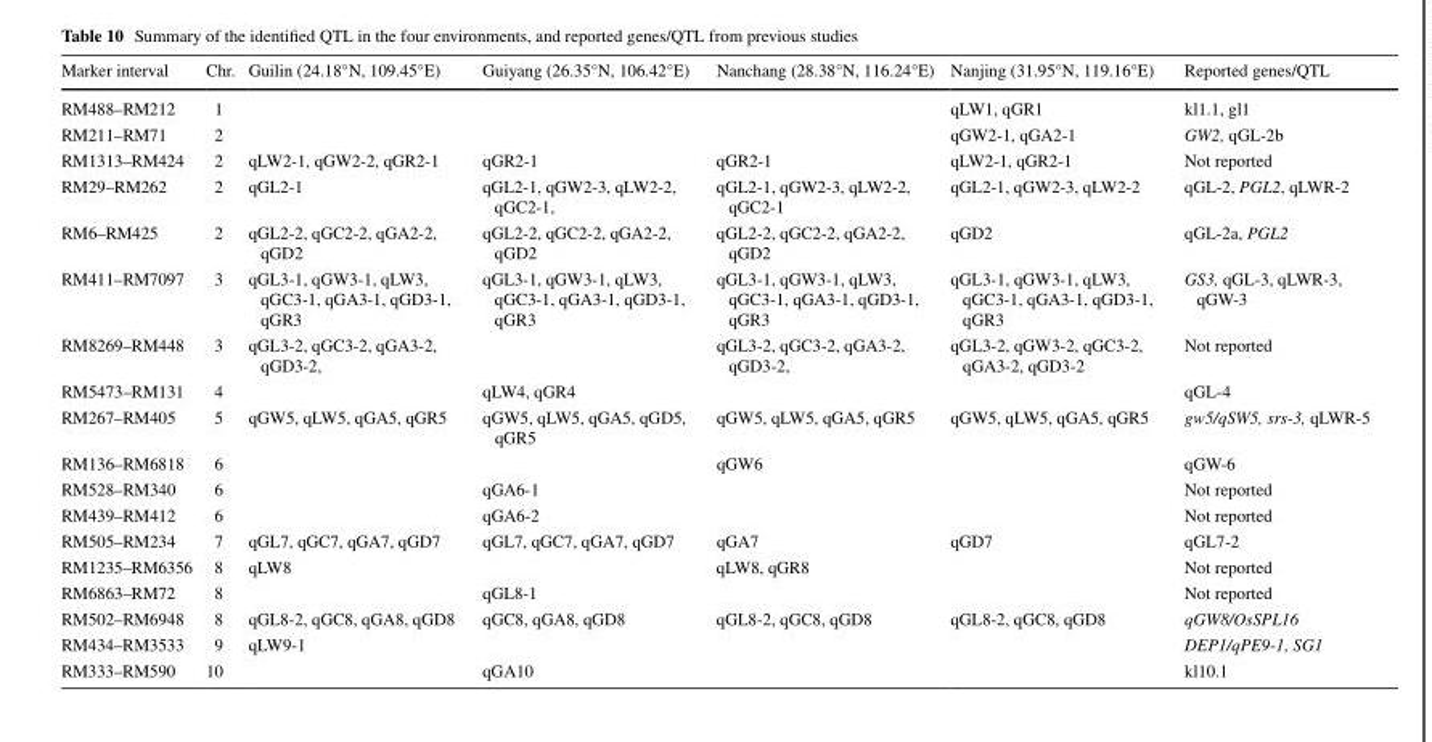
<table><thead><tr><td>Marker interval</td><td>Chr.</td><td>Guilin (24.18°N, 109.45°E)</td><td>Guiyang (26.35°N, 106.42°E)</td><td>Nanchang (28.38°N, 116.24°E)</td><td>Nanjing (31.95°N, 119.16°E)</td><td>Reported genes/QTL</td></tr></thead><tbody><tr><td>RM488–RM212</td><td>1</td><td></td><td></td><td></td><td>qLW1, qGR1</td><td>kl1.1, gl1</td></tr><tr><td>RM211–RM71</td><td>2</td><td></td><td></td><td></td><td>qGW2-1, qGA2-1</td><td>GW2, qGL-2b</td></tr><tr><td>RM1313–RM424</td><td>2</td><td>qLW2-1, qGW2-2, qGR2-1</td><td>qGR2-1</td><td>qGR2-1</td><td>qLW2-1, qGR2-1</td><td>Not reported</td></tr><tr><td>RM29–RM262</td><td>2</td><td>qGL2-1</td><td>qGL2-1, qGW2-3, qLW2-2, qGC2-1,</td><td>qGL2-1, qGW2-3, qLW2-2, qGC2-1</td><td>qGL2-1, qGW2-3, qLW2-2</td><td>qGL-2, PGL2, qLWR-2</td></tr><tr><td>RM6–RM425</td><td>2</td><td>qGL2-2, qGC2-2, qGA2-2, qGD2</td><td>qGL2-2, qGC2-2, qGA2-2, qGD2</td><td>qGL2-2, qGC2-2, qGA2-2, qGD2</td><td>qGD2</td><td>qGL-2a, PGL2</td></tr><tr><td>RM411–RM7097</td><td>3</td><td>qGL3-1, qGW3-1, qLW3, qGC3-1, qGA3-1, qGD3-1, qGR3</td><td>qGL3-1, qGW3-1, qLW3, qGC3-1, qGA3-1, qGD3-1, qGR3</td><td>qGL3-1, qGW3-1, qLW3, qGC3-1, qGA3-1, qGD3-1, qGR3</td><td>qGL3-1, qGW3-1, qLW3, qGC3-1, qGA3-1, qGD3-1, qGR3</td><td>GS3, qGL-3, qLWR-3, qGW-3</td></tr><tr><td>RM8269–RM448</td><td>3</td><td>qGL3-2, qGC3-2, qGA3-2, qGD3-2,</td><td></td><td>qGL3-2, qGC3-2, qGA3-2, qGD3-2,</td><td>qGL3-2, qGW3-2, qGC3-2, qGA3-2, qGD3-2</td><td>Not reported</td></tr><tr><td>RM5473–RM131</td><td>4</td><td></td><td>qLW4, qGR4</td><td></td><td></td><td>qGL-4</td></tr><tr><td>RM267–RM405</td><td>5</td><td>qGW5, qLW5, qGA5, qGR5</td><td>qGW5, qLW5, qGA5, qGD5, qGR5</td><td>qGW5, qLW5, qGA5, qGR5</td><td>qGW5, qLW5, qGA5, qGR5</td><td>gw5/qSW5, srs-3, qLWR-5</td></tr><tr><td>RM136–RM6818</td><td>6</td><td></td><td></td><td>qGW6</td><td></td><td>qGW-6</td></tr><tr><td>RM528–RM340</td><td>6</td><td></td><td>qGA6-1</td><td></td><td></td><td>Not reported</td></tr><tr><td>RM439–RM412</td><td>6</td><td></td><td>qGA6-2</td><td></td><td></td><td>Not reported</td></tr><tr><td>RM505–RM234</td><td>7</td><td>qGL7, qGC7, qGA7, qGD7</td><td>qGL7, qGC7, qGA7, qGD7</td><td>qGA7</td><td>qGD7</td><td>qGL7-2</td></tr><tr><td>RM1235–RM6356</td><td>8</td><td>qLW8</td><td></td><td>qLW8, qGR8</td><td></td><td>Not reported</td></tr><tr><td>RM6863–RM72</td><td>8</td><td></td><td>qGL8-1</td><td></td><td></td><td>Not reported</td></tr><tr><td>RM502–RM6948</td><td>8</td><td>qGL8-2, qGC8, qGA8, qGD8</td><td>qGC8, qGA8, qGD8</td><td>qGL8-2, qGC8, qGD8</td><td>qGL8-2, qGC8, qGD8</td><td>qGW8/OsSPL16</td></tr><tr><td>RM434–RM3533</td><td>9</td><td>qLW9-1</td><td></td><td></td><td></td><td>DEP1/qPE9-1, SG1</td></tr><tr><td>RM333–RM590</td><td>10</td><td></td><td>qGA10</td><td></td><td></td><td>kl10.1</td></tr></tbody></table>